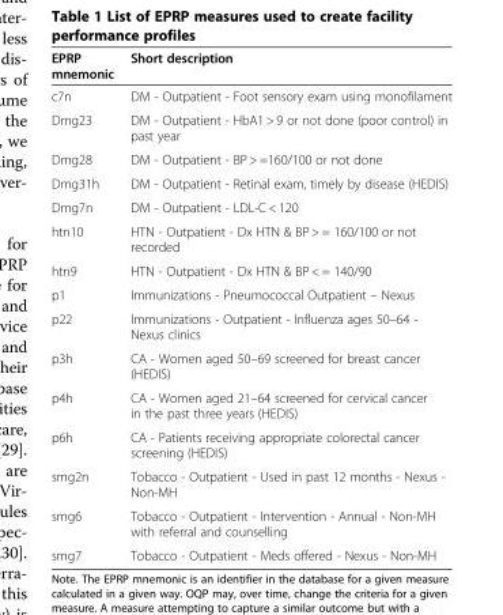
<table><thead><tr><td>EPRP mnemonic</td><td>Short description</td></tr></thead><tbody><tr><td>c7n</td><td>DM - Outpatient - Foot sensory exam using monofilament</td></tr><tr><td>Dmg23</td><td>DM - Outpatient - HbA1 &gt; 9 or not done (poor control) in past year</td></tr><tr><td>Dmg28</td><td>DM - Outpatient - BP &gt; =160/100 or not done</td></tr><tr><td>Dmg31h</td><td>DM - Outpatient - Retinal exam, timely by disease (HEDIS)</td></tr><tr><td>Dmg7n</td><td>DM - Outpatient - LDL-C &lt; 120</td></tr><tr><td>htn10</td><td>HTN - Outpatient - Dx HTN &amp; BP &gt; = 160/100 or not recorded</td></tr><tr><td>htn9</td><td>HTN - Outpatient - Dx HTN &amp; BP &lt; = 140/90</td></tr><tr><td>p1</td><td>Immunizations - Pneumococcal Outpatient – Nexus</td></tr><tr><td>p22</td><td>Immunizations - Outpatient - Influenza ages 50–64 - Nexus clinics</td></tr><tr><td>p3h</td><td>CA - Women aged 50–69 screened for breast cancer (HEDIS)</td></tr><tr><td>p4h</td><td>CA - Women aged 21–64 screened for cervical cancer in the past three years (HEDIS)</td></tr><tr><td>p6h</td><td>CA - Patients receiving appropriate colorectal cancer screening (HEDIS)</td></tr><tr><td>smg2n</td><td>Tobacco - Outpatient - Used in past 12 months - Nexus - Non-MH</td></tr><tr><td>smg6</td><td>Tobacco - Outpatient - Intervention - Annual - Non-MH with referral and counselling</td></tr><tr><td>smg7</td><td>Tobacco - Outpatient - Meds offered - Nexus - Non-MH</td></tr></tbody></table>